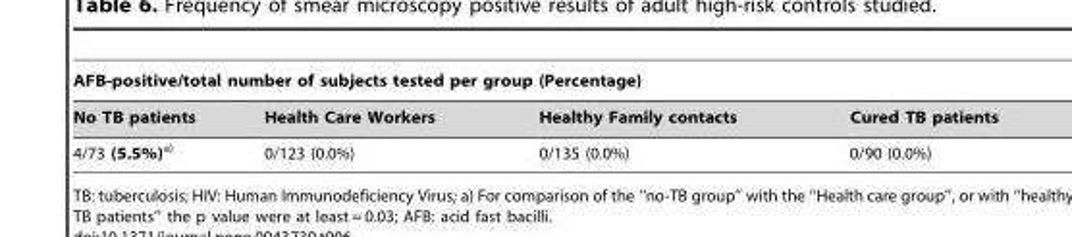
<table><thead><tr><td colspan="4">AFB-positive/total number of subjects tested per group (Percentage)</td></tr><tr><td>No TB patients</td><td>Health Care Workers</td><td>Healthy Family contacts</td><td>Cured TB patients</td></tr></thead><tbody><tr><td>4/73 (5.5%)<sup>a)</sup></td><td>0/123 (0.0%)</td><td>0/135 (0.0%)</td><td>0/90 (0.0%)</td></tr></tbody></table>